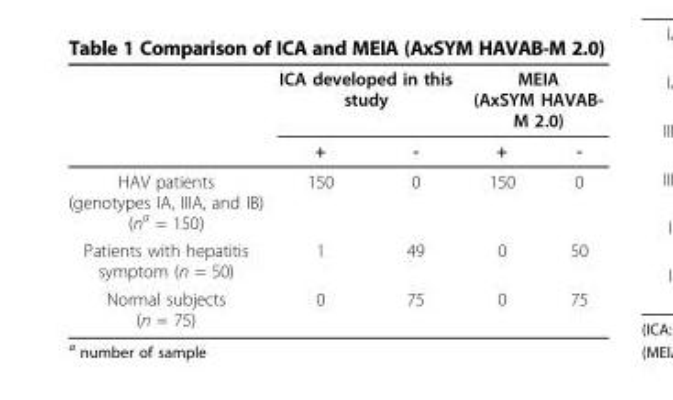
<table><thead><tr><td rowspan="2"></td><td colspan="2">ICA developed in this study</td><td colspan="2">MEIA (AxSYM HAVAB- M 2.0)</td></tr><tr><td>+</td><td>-</td><td>+</td><td>-</td></tr></thead><tbody><tr><td>HAV patients (genotypes IA, IIIA, and IB) (n<sup>a</sup> = 150)</td><td>150</td><td>0</td><td>150</td><td>0</td></tr><tr><td>Patients with hepatitis symptom (n = 50)</td><td>1</td><td>49</td><td>0</td><td>50</td></tr><tr><td>Normal subjects (n = 75)</td><td>0</td><td>75</td><td>0</td><td>75</td></tr></tbody></table>